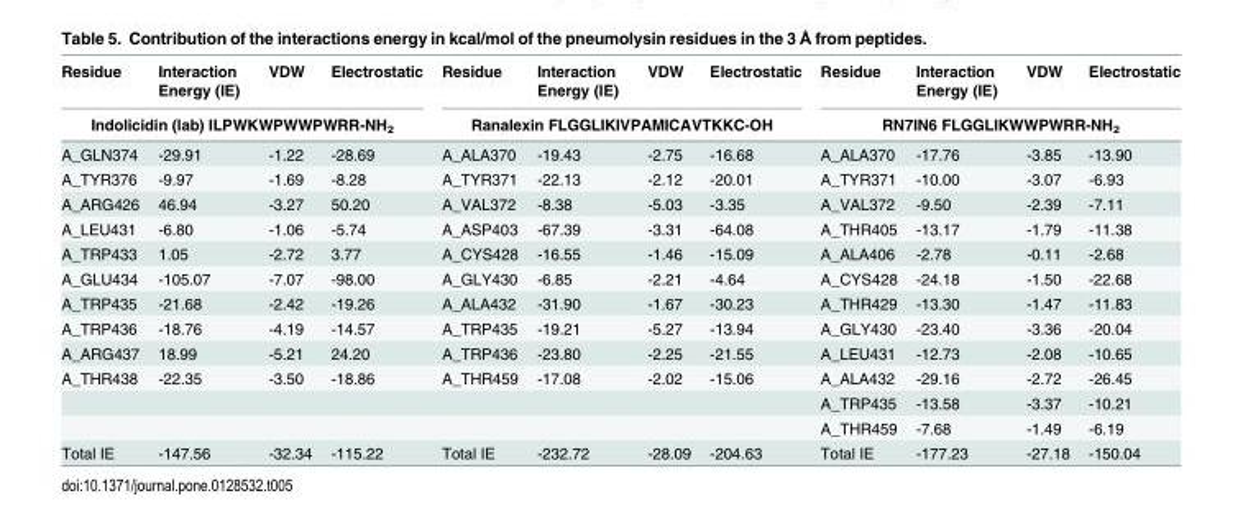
<table><thead><tr><td>Residue</td><td>Interaction Energy (IE)</td><td>VDW</td><td>Electrostatic</td><td>Residue</td><td>Interaction Energy (IE)</td><td>VDW</td><td>Electrostatic</td><td>Residue</td><td>Interaction Energy (IE)</td><td>VDW</td><td>Electrostatic</td></tr><tr><td colspan="4">Indolicidin (lab) ILPWKWPWWPWRR-NH<sub>2</sub></td><td colspan="4">Ranalexin FLGGLIKIVPAMICAVTKKC-OH</td><td colspan="4">RN7IN6 FLGGLIKWWPWRR-NH<sub>2</sub></td></tr></thead><tbody><tr><td>A_GLN374</td><td>-29.91</td><td>-1.22</td><td>-28.69</td><td>A_ALA370</td><td>-19.43</td><td>-2.75</td><td>-16.68</td><td>A_ALA370</td><td>-17.76</td><td>-3.85</td><td>-13.90</td></tr><tr><td>A_TYR376</td><td>-9.97</td><td>-1.69</td><td>-8.28</td><td>A_TYR371</td><td>-22.13</td><td>-2.12</td><td>-20.01</td><td>A_TYR371</td><td>-10.00</td><td>-3.07</td><td>-6.93</td></tr><tr><td>A_ARG426</td><td>46.94</td><td>-3.27</td><td>50.20</td><td>A_VAL372</td><td>-8.38</td><td>-5.03</td><td>-3.35</td><td>A_VAL372</td><td>-9.50</td><td>-2.39</td><td>-7.11</td></tr><tr><td>A_LEU431</td><td>-6.80</td><td>-1.06</td><td>-5.74</td><td>A_ASP403</td><td>-67.39</td><td>-3.31</td><td>-64.08</td><td>A_THR405</td><td>-13.17</td><td>-1.79</td><td>-11.38</td></tr><tr><td>A_TRP433</td><td>1.05</td><td>-2.72</td><td>3.77</td><td>A_CYS428</td><td>-16.55</td><td>-1.46</td><td>-15.09</td><td>A_ALA406</td><td>-2.78</td><td>-0.11</td><td>-2.68</td></tr><tr><td>A_GLU434</td><td>-105.07</td><td>-7.07</td><td>-98.00</td><td>A_GLY430</td><td>-6.85</td><td>-2.21</td><td>-4.64</td><td>A_CYS428</td><td>-24.18</td><td>-1.50</td><td>-22.68</td></tr><tr><td>A_TRP435</td><td>-21.68</td><td>-2.42</td><td>-19.26</td><td>A_ALA432</td><td>-31.90</td><td>-1.67</td><td>-30.23</td><td>A_THR429</td><td>-13.30</td><td>-1.47</td><td>-11.83</td></tr><tr><td>A_TRP436</td><td>-18.76</td><td>-4.19</td><td>-14.57</td><td>A_TRP435</td><td>-19.21</td><td>-5.27</td><td>-13.94</td><td>A_GLY430</td><td>-23.40</td><td>-3.36</td><td>-20.04</td></tr><tr><td>A_ARG437</td><td>18.99</td><td>-5.21</td><td>24.20</td><td>A_TRP436</td><td>-23.80</td><td>-2.25</td><td>-21.55</td><td>A_LEU431</td><td>-12.73</td><td>-2.08</td><td>-10.65</td></tr><tr><td rowspan="3">A_THR438</td><td>-22.35</td><td>-3.50</td><td>-18.86</td><td>A_THR459</td><td>-17.08</td><td>-2.02</td><td>-15.06</td><td>A_ALA432</td><td>-29.16</td><td>-2.72</td><td>-26.45</td></tr><tr><td></td><td></td><td></td><td></td><td></td><td></td><td></td><td>A_TRP435</td><td>-13.58</td><td>-3.37</td><td>-10.21</td></tr><tr><td></td><td></td><td></td><td></td><td></td><td></td><td></td><td>A_THR459</td><td>-7.68</td><td>-1.49</td><td>-6.19</td></tr><tr><td>Total IE</td><td>-147.56</td><td>-32.34</td><td>-115.22</td><td>Total IE</td><td>-232.72</td><td>-28.09</td><td>-204.63</td><td>Total IE</td><td>-177.23</td><td>-27.18</td><td>-150.04</td></tr></tbody></table>